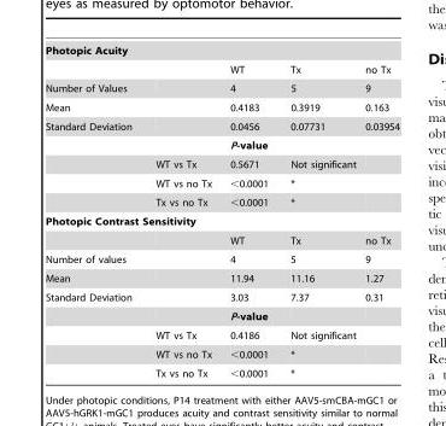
<table><tbody><tr><td colspan="5">Photopic Acuity</td></tr><tr><td></td><td></td><td>WT</td><td>Tx</td><td>no Tx</td></tr><tr><td>Number of Values</td><td></td><td>4</td><td>5</td><td>9</td></tr><tr><td>Mean</td><td></td><td>0.4183</td><td>0.3919</td><td>0.163</td></tr><tr><td rowspan="5">Standard Deviation</td><td></td><td>0.0456</td><td>0.07731</td><td>0.03954</td></tr><tr><td></td><td>P-value</td><td></td><td></td></tr><tr><td>WT vs Tx</td><td>0.5671</td><td>Not significant</td><td></td></tr><tr><td>WT vs no Tx</td><td>&lt;0.0001</td><td>*</td><td></td></tr><tr><td>Tx vs no Tx</td><td>&lt;0.0001</td><td>*</td><td></td></tr><tr><td colspan="5">Photopic Contrast Sensitivity</td></tr><tr><td></td><td></td><td>WT</td><td>Tx</td><td>no Tx</td></tr><tr><td>Number of values</td><td></td><td>4</td><td>5</td><td>9</td></tr><tr><td>Mean</td><td></td><td>11.94</td><td>11.16</td><td>1.27</td></tr><tr><td rowspan="5">Standard Deviation</td><td></td><td>3.03</td><td>7.37</td><td>0.31</td></tr><tr><td></td><td>P-value</td><td></td><td></td></tr><tr><td>WT vs Tx</td><td>0.4186</td><td>Not significant</td><td></td></tr><tr><td>WT vs no Tx</td><td>&lt;0.0001</td><td>*</td><td></td></tr><tr><td>Tx vs no Tx</td><td>&lt;0.0001</td><td>*</td><td></td></tr></tbody></table>